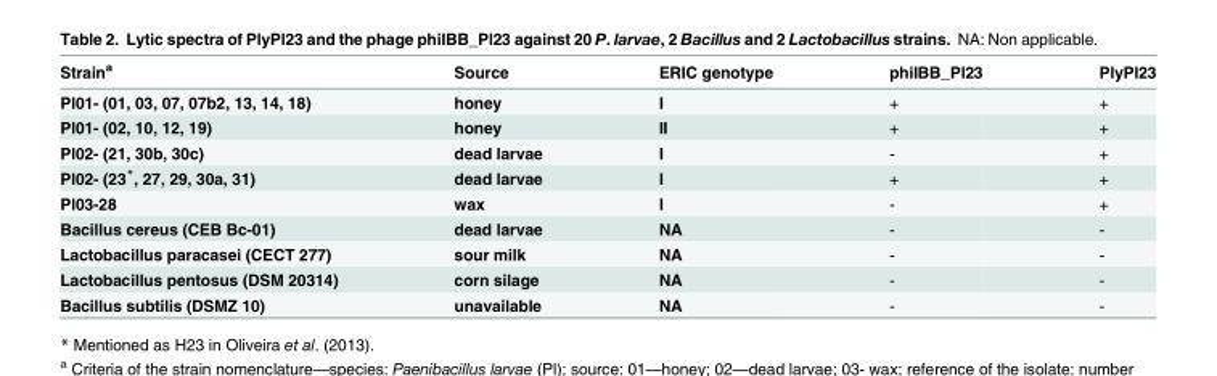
<table><thead><tr><td>Strain<sup>a</sup></td><td>Source</td><td>ERIC genotype</td><td>phiIBB_Pl23</td><td>PlyPl23</td></tr></thead><tbody><tr><td>Pl01- (01, 03, 07, 07b2, 13, 14, 18)</td><td>honey</td><td>I</td><td>+</td><td>+</td></tr><tr><td>Pl01- (02, 10, 12, 19)</td><td>honey</td><td>II</td><td>+</td><td>+</td></tr><tr><td>Pl02- (21, 30b, 30c)</td><td>dead larvae</td><td>I</td><td>-</td><td>+</td></tr><tr><td>Pl02- (23*, 27, 29, 30a, 31)</td><td>dead larvae</td><td>I</td><td>+</td><td>+</td></tr><tr><td>Pl03-28</td><td>wax</td><td>I</td><td>-</td><td>+</td></tr><tr><td>Bacillus cereus (CEB Bc-01)</td><td>dead larvae</td><td>NA</td><td>-</td><td>-</td></tr><tr><td>Lactobacillus paracasei (CECT 277)</td><td>sour milk</td><td>NA</td><td>-</td><td>-</td></tr><tr><td>Lactobacillus pentosus (DSM 20314)</td><td>corn silage</td><td>NA</td><td>-</td><td>-</td></tr><tr><td>Bacillus subtilis (DSMZ 10)</td><td>unavailable</td><td>NA</td><td>-</td><td>-</td></tr></tbody></table>